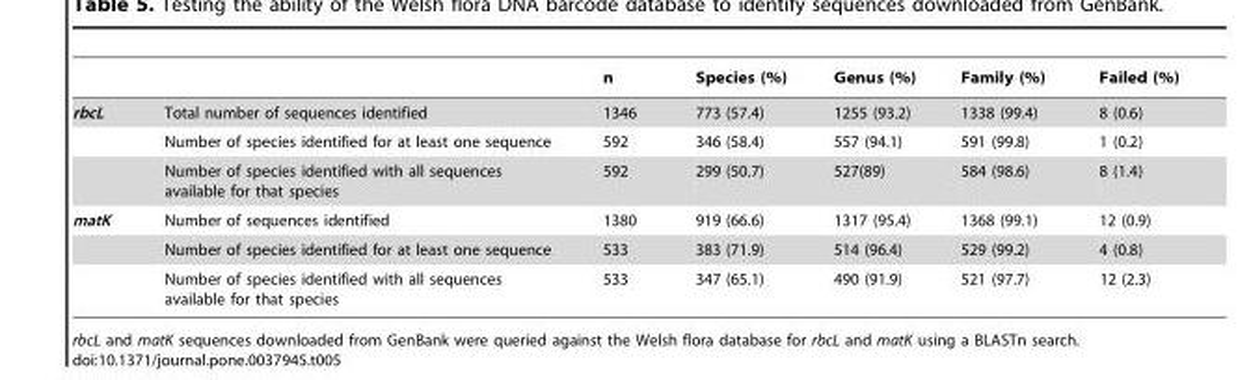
<table><thead><tr><td></td><td></td><td>n</td><td>Species (%)</td><td>Genus (%)</td><td>Family (%)</td><td>Failed (%)</td></tr></thead><tbody><tr><td rowspan="3">rbcL</td><td>Total number of sequences identified</td><td>1346</td><td>773 (57.4)</td><td>1255 (93.2)</td><td>1338 (99.4)</td><td>8 (0.6)</td></tr><tr><td>Number of species identified for at least one sequence</td><td>592</td><td>346 (58.4)</td><td>557 (94.1)</td><td>591 (99.8)</td><td>1 (0.2)</td></tr><tr><td>Number of species identified with all sequences available for that species</td><td>592</td><td>299 (50.7)</td><td>527(89)</td><td>584 (98.6)</td><td>8 (1.4)</td></tr><tr><td rowspan="3">matK</td><td>Number of sequences identified</td><td>1380</td><td>919 (66.6)</td><td>1317 (95.4)</td><td>1368 (99.1)</td><td>12 (0.9)</td></tr><tr><td>Number of species identified for at least one sequence</td><td>533</td><td>383 (71.9)</td><td>514 (96.4)</td><td>529 (99.2)</td><td>4 (0.8)</td></tr><tr><td>Number of species identified with all sequences available for that species</td><td>533</td><td>347 (65.1)</td><td>490 (91.9)</td><td>521 (97.7)</td><td>12 (2.3)</td></tr></tbody></table>